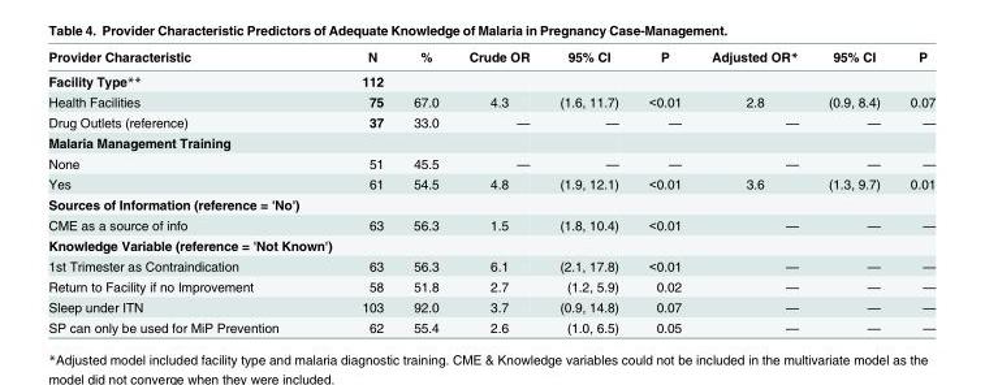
<table><thead><tr><td>Provider Characteristic</td><td>N</td><td>%</td><td>Crude OR</td><td>95% CI</td><td>P</td><td>Adjusted OR*</td><td>95% CI</td><td>P</td></tr></thead><tbody><tr><td>Facility Type**</td><td>112</td><td></td><td></td><td></td><td></td><td></td><td></td><td></td></tr><tr><td>Health Facilities</td><td>75</td><td>67.0</td><td>4.3</td><td>(1.6, 11.7)</td><td>&lt;0.01</td><td>2.8</td><td>(0.9, 8.4)</td><td>0.07</td></tr><tr><td>Drug Outlets (reference)</td><td>37</td><td>33.0</td><td>—</td><td>—</td><td>—</td><td>—</td><td>—</td><td>—</td></tr><tr><td colspan="9">Malaria Management Training</td></tr><tr><td>None</td><td>51</td><td>45.5</td><td>—</td><td>—</td><td>—</td><td>—</td><td>—</td><td>—</td></tr><tr><td>Yes</td><td>61</td><td>54.5</td><td>4.8</td><td>(1.9, 12.1)</td><td>&lt;0.01</td><td>3.6</td><td>(1.3, 9.7)</td><td>0.01</td></tr><tr><td colspan="9">Sources of Information (reference = &#x27;No&#x27;)</td></tr><tr><td>CME as a source of info</td><td>63</td><td>56.3</td><td>1.5</td><td>(1.8, 10.4)</td><td>&lt;0.01</td><td>—</td><td>—</td><td>—</td></tr><tr><td colspan="9">Knowledge Variable (reference = &#x27;Not Known&#x27;)</td></tr><tr><td>1st Trimester as Contraindication</td><td>63</td><td>56.3</td><td>6.1</td><td>(2.1, 17.8)</td><td>&lt;0.01</td><td>—</td><td>—</td><td>—</td></tr><tr><td>Return to Facility if no Improvement</td><td>58</td><td>51.8</td><td>2.7</td><td>(1.2, 5.9)</td><td>0.02</td><td>—</td><td>—</td><td>—</td></tr><tr><td>Sleep under ITN</td><td>103</td><td>92.0</td><td>3.7</td><td>(0.9, 14.8)</td><td>0.07</td><td>—</td><td>—</td><td>—</td></tr><tr><td>SP can only be used for MiP Prevention</td><td>62</td><td>55.4</td><td>2.6</td><td>(1.0, 6.5)</td><td>0.05</td><td>—</td><td>—</td><td>—</td></tr></tbody></table>